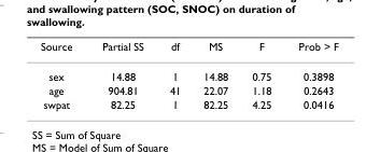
<table><thead><tr><td>Source</td><td>Partial SS</td><td>df</td><td>MS</td><td>F</td><td>Prob &gt; F</td></tr></thead><tbody><tr><td>sex</td><td>14.88</td><td>1</td><td>14.88</td><td>0.75</td><td>0.3898</td></tr><tr><td>age</td><td>904.81</td><td>41</td><td>22.07</td><td>1.18</td><td>0.2643</td></tr><tr><td>swpat</td><td>82.25</td><td>1</td><td>82.25</td><td>4.25</td><td>0.0416</td></tr></tbody></table>